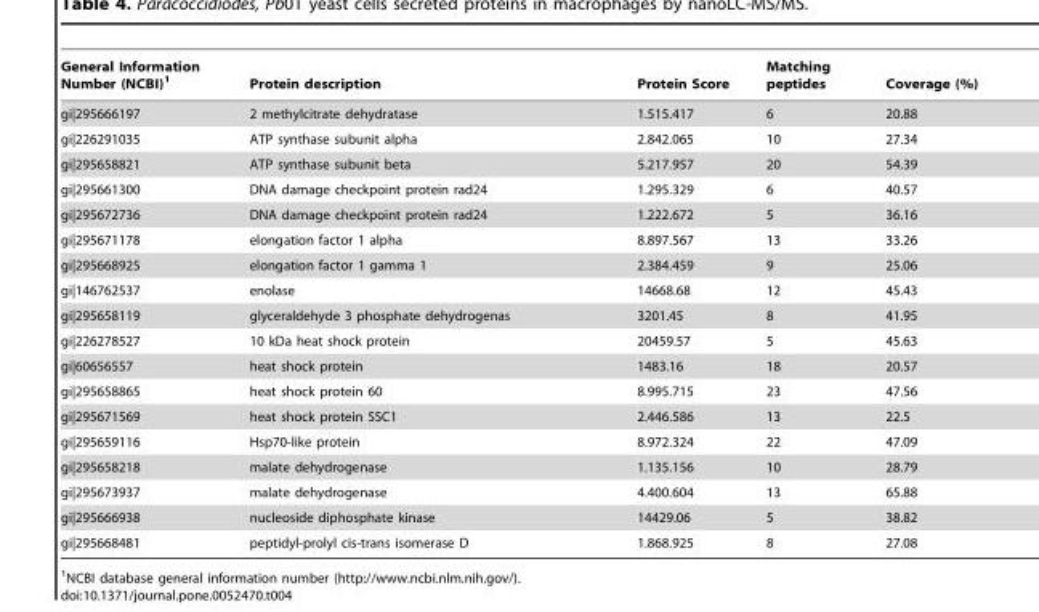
<table><thead><tr><td>General Information Number (NCBI)<sup>1</sup></td><td>Protein description</td><td>Protein Score</td><td>Matching peptides</td><td>Coverage (%)</td></tr></thead><tbody><tr><td>gi|295666197</td><td>2 methylcitrate dehydratase</td><td>1.515.417</td><td>6</td><td>20.88</td></tr><tr><td>gi|226291035</td><td>ATP synthase subunit alpha</td><td>2.842.065</td><td>10</td><td>27.34</td></tr><tr><td>gi|295658821</td><td>ATP synthase subunit beta</td><td>5.217.957</td><td>20</td><td>54.39</td></tr><tr><td>gi|295661300</td><td>DNA damage checkpoint protein rad24</td><td>1.295.329</td><td>6</td><td>40.57</td></tr><tr><td>gi|295672736</td><td>DNA damage checkpoint protein rad24</td><td>1.222.672</td><td>5</td><td>36.16</td></tr><tr><td>gi|295671178</td><td>elongation factor 1 alpha</td><td>8.897.567</td><td>13</td><td>33.26</td></tr><tr><td>gi|295668925</td><td>elongation factor 1 gamma 1</td><td>2.384.459</td><td>9</td><td>25.06</td></tr><tr><td>gi|146762537</td><td>enolase</td><td>14668.68</td><td>12</td><td>45.43</td></tr><tr><td>gi|295658119</td><td>glyceraldehyde 3 phosphate dehydrogenas</td><td>3201.45</td><td>8</td><td>41.95</td></tr><tr><td>gi|226278527</td><td>10 kDa heat shock protein</td><td>20459.57</td><td>5</td><td>45.63</td></tr><tr><td>gi|60656557</td><td>heat shock protein</td><td>1483.16</td><td>18</td><td>20.57</td></tr><tr><td>gi|295658865</td><td>heat shock protein 60</td><td>8.995.715</td><td>23</td><td>47.56</td></tr><tr><td>gi|295671569</td><td>heat shock protein SSC1</td><td>2.446.586</td><td>13</td><td>22.5</td></tr><tr><td>gi|295659116</td><td>Hsp70-like protein</td><td>8.972.324</td><td>22</td><td>47.09</td></tr><tr><td>gi|295658218</td><td>malate dehydrogenase</td><td>1.135.156</td><td>10</td><td>28.79</td></tr><tr><td>gi|295673937</td><td>malate dehydrogenase</td><td>4.400.604</td><td>13</td><td>65.88</td></tr><tr><td>gi|295666938</td><td>nucleoside diphosphate kinase</td><td>14429.06</td><td>5</td><td>38.82</td></tr><tr><td>gi|295668481</td><td>peptidyl-prolyl cis-trans isomerase D</td><td>1.868.925</td><td>8</td><td>27.08</td></tr></tbody></table>